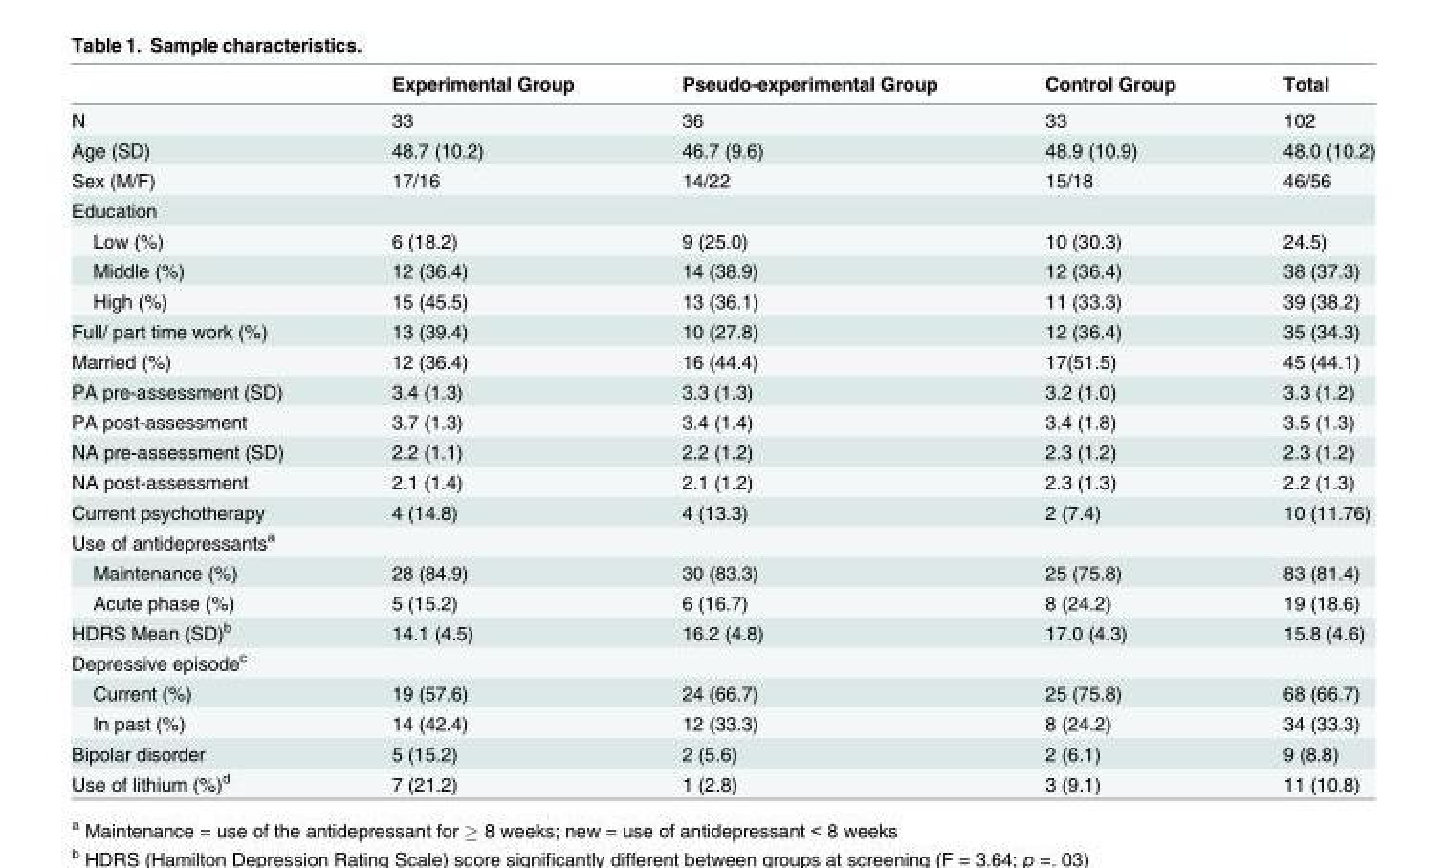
<table><thead><tr><td></td><td>Experimental Group</td><td>Pseudo-experimental Group</td><td>Control Group</td><td>Total</td></tr></thead><tbody><tr><td>N</td><td>33</td><td>36</td><td>33</td><td>102</td></tr><tr><td>Age (SD)</td><td>48.7 (10.2)</td><td>46.7 (9.6)</td><td>48.9 (10.9)</td><td>48.0 (10.2)</td></tr><tr><td>Sex (M/F)</td><td>17/16</td><td>14/22</td><td>15/18</td><td>46/56</td></tr><tr><td colspan="5">Education</td></tr><tr><td>Low (%)</td><td>6 (18.2)</td><td>9 (25.0)</td><td>10 (30.3)</td><td>24.5)</td></tr><tr><td>Middle (%)</td><td>12 (36.4)</td><td>14 (38.9)</td><td>12 (36.4)</td><td>38 (37.3)</td></tr><tr><td>High (%)</td><td>15 (45.5)</td><td>13 (36.1)</td><td>11 (33.3)</td><td>39 (38.2)</td></tr><tr><td>Full/ part time work (%)</td><td>13 (39.4)</td><td>10 (27.8)</td><td>12 (36.4)</td><td>35 (34.3)</td></tr><tr><td>Married (%)</td><td>12 (36.4)</td><td>16 (44.4)</td><td>17(51.5)</td><td>45 (44.1)</td></tr><tr><td>PA pre-assessment (SD)</td><td>3.4 (1.3)</td><td>3.3 (1.3)</td><td>3.2 (1.0)</td><td>3.3 (1.2)</td></tr><tr><td>PA post-assessment</td><td>3.7 (1.3)</td><td>3.4 (1.4)</td><td>3.4 (1.8)</td><td>3.5 (1.3)</td></tr><tr><td>NA pre-assessment (SD)</td><td>2.2 (1.1)</td><td>2.2 (1.2)</td><td>2.3 (1.2)</td><td>2.3 (1.2)</td></tr><tr><td>NA post-assessment</td><td>2.1 (1.4)</td><td>2.1 (1.2)</td><td>2.3 (1.3)</td><td>2.2 (1.3)</td></tr><tr><td>Current psychotherapy</td><td>4 (14.8)</td><td>4 (13.3)</td><td>2 (7.4)</td><td>10 (11.76)</td></tr><tr><td colspan="5">Use of antidepressants<sup>a</sup></td></tr><tr><td>Maintenance (%)</td><td>28 (84.9)</td><td>30 (83.3)</td><td>25 (75.8)</td><td>83 (81.4)</td></tr><tr><td>Acute phase (%)</td><td>5 (15.2)</td><td>6 (16.7)</td><td>8 (24.2)</td><td>19 (18.6)</td></tr><tr><td>HDRS Mean (SD)<sup>b</sup></td><td>14.1 (4.5)</td><td>16.2 (4.8)</td><td>17.0 (4.3)</td><td>15.8 (4.6)</td></tr><tr><td colspan="5">Depressive episode<sup>c</sup></td></tr><tr><td>Current (%)</td><td>19 (57.6)</td><td>24 (66.7)</td><td>25 (75.8)</td><td>68 (66.7)</td></tr><tr><td>In past (%)</td><td>14 (42.4)</td><td>12 (33.3)</td><td>8 (24.2)</td><td>34 (33.3)</td></tr><tr><td>Bipolar disorder</td><td>5 (15.2)</td><td>2 (5.6)</td><td>2 (6.1)</td><td>9 (8.8)</td></tr><tr><td>Use of lithium (%)<sup>d</sup></td><td>7 (21.2)</td><td>1 (2.8)</td><td>3 (9.1)</td><td>11 (10.8)</td></tr></tbody></table>